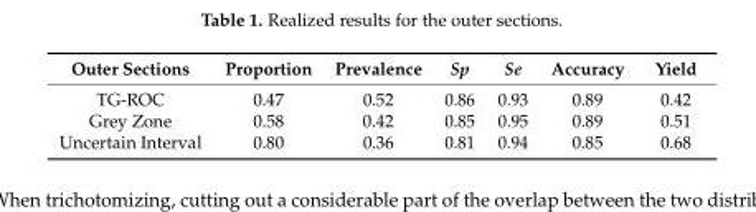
<table><thead><tr><td>Outer Sections</td><td>Proportion</td><td>Prevalence</td><td>Sp</td><td>Se</td><td>Accuracy</td><td>Yield</td></tr></thead><tbody><tr><td>TG-ROC</td><td>0.47</td><td>0.52</td><td>0.86</td><td>0.93</td><td>0.89</td><td>0.42</td></tr><tr><td>Grey Zone</td><td>0.58</td><td>0.42</td><td>0.85</td><td>0.95</td><td>0.89</td><td>0.51</td></tr><tr><td>Uncertain Interval</td><td>0.80</td><td>0.36</td><td>0.81</td><td>0.94</td><td>0.85</td><td>0.68</td></tr></tbody></table>